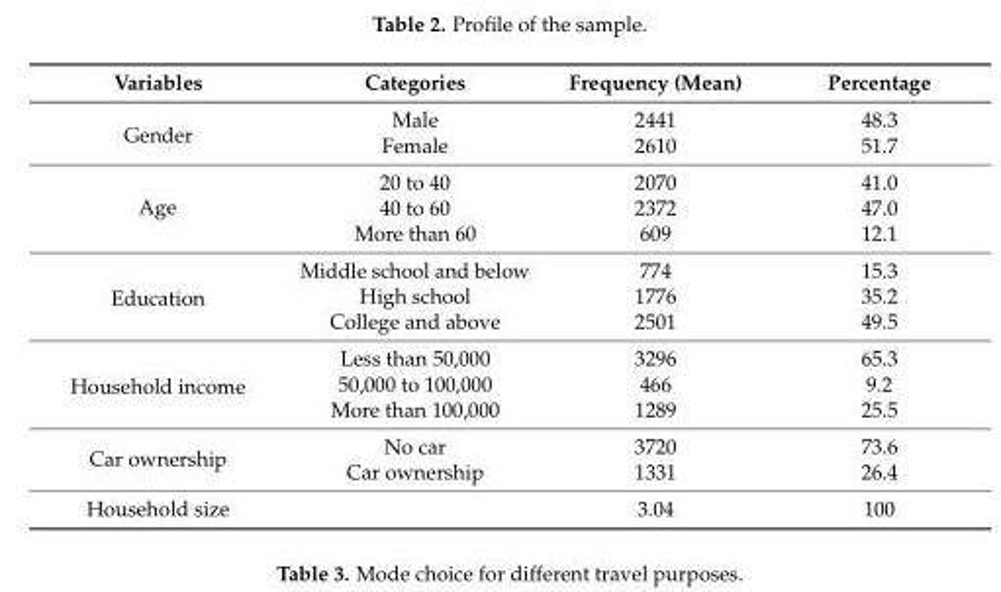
<table><thead><tr><td>Variables</td><td>Categories</td><td>Frequency (Mean)</td><td>Percentage</td></tr></thead><tbody><tr><td rowspan="2">Gender</td><td>Male</td><td>2441</td><td>48.3</td></tr><tr><td>Female</td><td>2610</td><td>51.7</td></tr><tr><td rowspan="3">Age</td><td>20 to 40</td><td>2070</td><td>41.0</td></tr><tr><td>40 to 60</td><td>2372</td><td>47.0</td></tr><tr><td>More than 60</td><td>609</td><td>12.1</td></tr><tr><td rowspan="3">Education</td><td>Middle school and below</td><td>774</td><td>15.3</td></tr><tr><td>High school</td><td>1776</td><td>35.2</td></tr><tr><td>College and above</td><td>2501</td><td>49.5</td></tr><tr><td rowspan="3">Household income</td><td>Less than 50,000</td><td>3296</td><td>65.3</td></tr><tr><td>50,000 to 100,000</td><td>466</td><td>9.2</td></tr><tr><td>More than 100,000</td><td>1289</td><td>25.5</td></tr><tr><td rowspan="2">Car ownership</td><td>No car</td><td>3720</td><td>73.6</td></tr><tr><td>Car ownership</td><td>1331</td><td>26.4</td></tr><tr><td>Household size</td><td></td><td>3.04</td><td>100</td></tr></tbody></table>